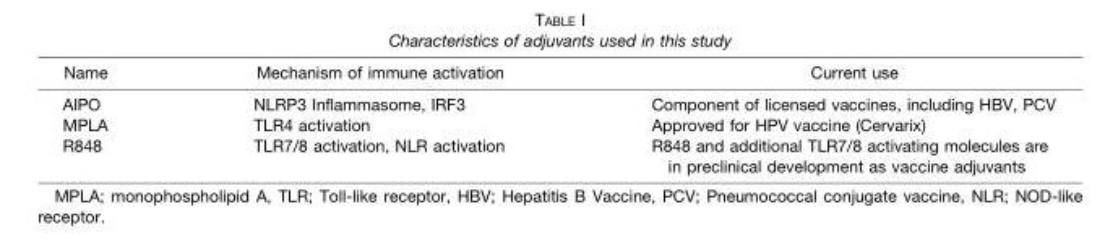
<table><thead><tr><td>Name</td><td>Mechanism of immune activation</td><td>Current use</td></tr></thead><tbody><tr><td>AlPO</td><td>NLRP3 Inflammasome, IRF3</td><td>Component of licensed vaccines, including HBV, PCV</td></tr><tr><td>MPLA</td><td>TLR4 activation</td><td>Approved for HPV vaccine (Cervarix)</td></tr><tr><td>R848</td><td>TLR7/8 activation, NLR activation</td><td>R848 and additional TLR7/8 activating molecules are in preclinical development as vaccine adjuvants</td></tr></tbody></table>